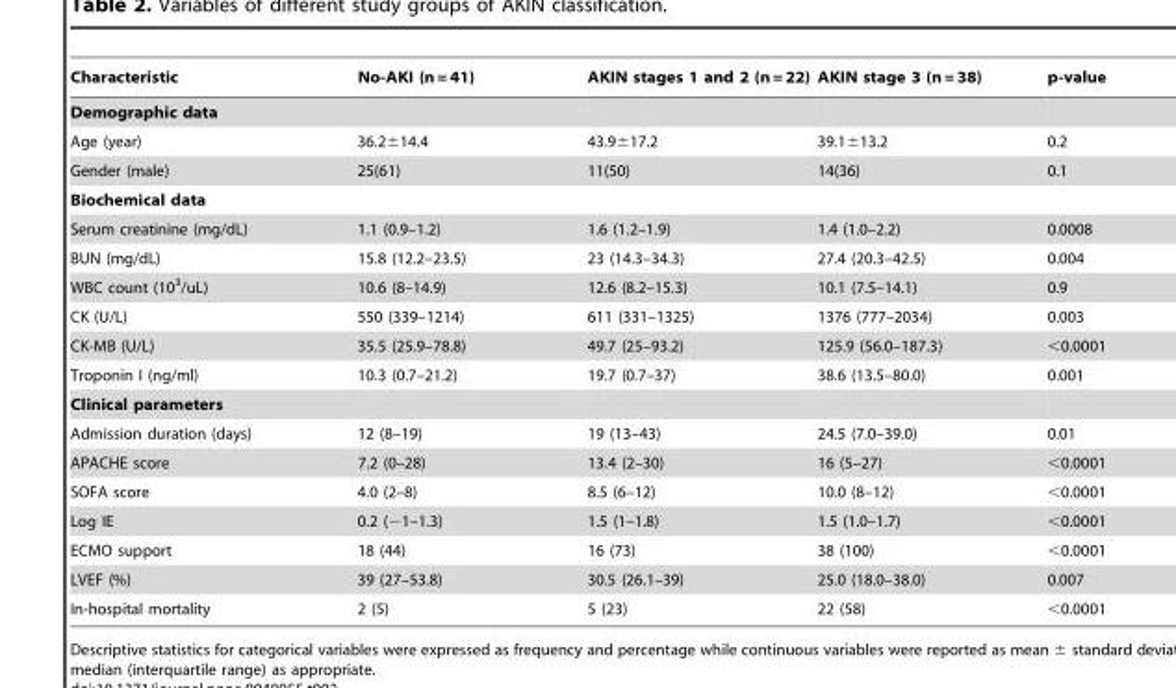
<table><thead><tr><td>Characteristic</td><td>No-AKI (n = 41)</td><td>AKIN stages 1 and 2 (n = 22)</td><td>AKIN stage 3 (n = 38)</td><td>p-value</td></tr></thead><tbody><tr><td colspan="5">Demographic data</td></tr><tr><td>Age (year)</td><td>36.2±14.4</td><td>43.9±17.2</td><td>39.1±13.2</td><td>0.2</td></tr><tr><td>Gender (male)</td><td>25(61)</td><td>11(50)</td><td>14(36)</td><td>0.1</td></tr><tr><td colspan="5">Biochemical data</td></tr><tr><td>Serum creatinine (mg/dL)</td><td>1.1 (0.9–1.2)</td><td>1.6 (1.2–1.9)</td><td>1.4 (1.0–2.2)</td><td>0.0008</td></tr><tr><td>BUN (mg/dL)</td><td>15.8 (12.2–23.5)</td><td>23 (14.3–34.3)</td><td>27.4 (20.3–42.5)</td><td>0.004</td></tr><tr><td>WBC count (10<sup>3</sup>/uL)</td><td>10.6 (8–14.9)</td><td>12.6 (8.2–15.3)</td><td>10.1 (7.5–14.1)</td><td>0.9</td></tr><tr><td>CK (U/L)</td><td>550 (339–1214)</td><td>611 (331–1325)</td><td>1376 (777–2034)</td><td>0.003</td></tr><tr><td>CK-MB (U/L)</td><td>35.5 (25.9–78.8)</td><td>49.7 (25–93.2)</td><td>125.9 (56.0–187.3)</td><td>&lt;0.0001</td></tr><tr><td>Troponin I (ng/ml)</td><td>10.3 (0.7–21.2)</td><td>19.7 (0.7–37)</td><td>38.6 (13.5–80.0)</td><td>0.001</td></tr><tr><td colspan="5">Clinical parameters</td></tr><tr><td>Admission duration (days)</td><td>12 (8–19)</td><td>19 (13–43)</td><td>24.5 (7.0–39.0)</td><td>0.01</td></tr><tr><td>APACHE score</td><td>7.2 (0–28)</td><td>13.4 (2–30)</td><td>16 (5–27)</td><td>&lt;0.0001</td></tr><tr><td>SOFA score</td><td>4.0 (2–8)</td><td>8.5 (6–12)</td><td>10.0 (8–12)</td><td>&lt;0.0001</td></tr><tr><td>Log IE</td><td>0.2 (−1–1.3)</td><td>1.5 (1–1.8)</td><td>1.5 (1.0–1.7)</td><td>&lt;0.0001</td></tr><tr><td>ECMO support</td><td>18 (44)</td><td>16 (73)</td><td>38 (100)</td><td>&lt;0.0001</td></tr><tr><td>LVEF (%)</td><td>39 (27–53.8)</td><td>30.5 (26.1–39)</td><td>25.0 (18.0–38.0)</td><td>0.007</td></tr><tr><td>In-hospital mortality</td><td>2 (5)</td><td>5 (23)</td><td>22 (58)</td><td>&lt;0.0001</td></tr></tbody></table>